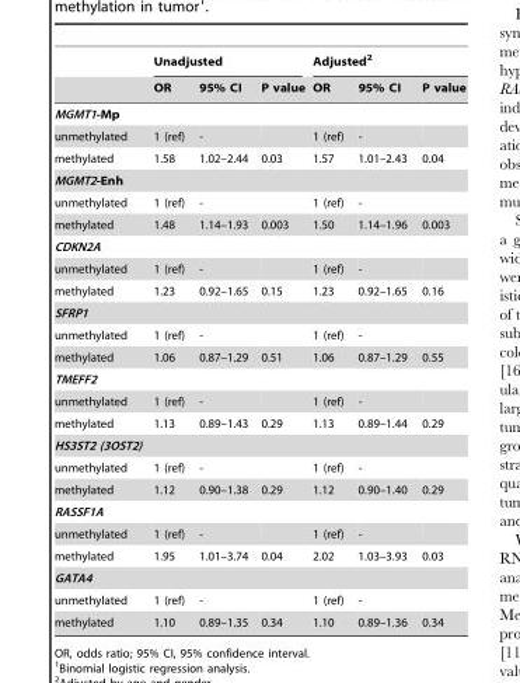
<table><thead><tr><td rowspan="2"></td><td colspan="3">Unadjusted</td><td colspan="3">Adjusted<sup>2</sup></td></tr><tr><td>OR</td><td>95% CI</td><td>P value</td><td>OR</td><td>95% CI</td><td>P value</td></tr></thead><tbody><tr><td colspan="7">MGMT1-Mp</td></tr><tr><td>unmethylated</td><td>1 (ref)</td><td>-</td><td></td><td>1 (ref)</td><td>-</td><td></td></tr><tr><td>methylated</td><td>1.58</td><td>1.02–2.44</td><td>0.03</td><td>1.57</td><td>1.01–2.43</td><td>0.04</td></tr><tr><td colspan="7">MGMT2-Enh</td></tr><tr><td>unmethylated</td><td>1 (ref)</td><td>-</td><td></td><td>1 (ref)</td><td>-</td><td></td></tr><tr><td>methylated</td><td>1.48</td><td>1.14–1.93</td><td>0.003</td><td>1.50</td><td>1.14–1.96</td><td>0.003</td></tr><tr><td colspan="7">CDKN2A</td></tr><tr><td>unmethylated</td><td>1 (ref)</td><td>-</td><td></td><td>1 (ref)</td><td>-</td><td></td></tr><tr><td>methylated</td><td>1.23</td><td>0.92–1.65</td><td>0.15</td><td>1.23</td><td>0.92–1.65</td><td>0.16</td></tr><tr><td colspan="7">SFRP1</td></tr><tr><td>unmethylated</td><td>1 (ref)</td><td>-</td><td></td><td>1 (ref)</td><td>-</td><td></td></tr><tr><td>methylated</td><td>1.06</td><td>0.87–1.29</td><td>0.51</td><td>1.06</td><td>0.87–1.29</td><td>0.55</td></tr><tr><td colspan="7">TMEFF2</td></tr><tr><td>unmethylated</td><td>1 (ref)</td><td>-</td><td></td><td>1 (ref)</td><td>-</td><td></td></tr><tr><td>methylated</td><td>1.13</td><td>0.89–1.43</td><td>0.29</td><td>1.13</td><td>0.89–1.44</td><td>0.29</td></tr><tr><td colspan="7">HS3ST2 (3OST2)</td></tr><tr><td>unmethylated</td><td>1 (ref)</td><td>-</td><td></td><td>1 (ref)</td><td>-</td><td></td></tr><tr><td>methylated</td><td>1.12</td><td>0.90–1.38</td><td>0.29</td><td>1.12</td><td>0.90–1.40</td><td>0.29</td></tr><tr><td colspan="7">RASSF1A</td></tr><tr><td>unmethylated</td><td>1 (ref)</td><td>-</td><td></td><td>1 (ref)</td><td>-</td><td></td></tr><tr><td>methylated</td><td>1.95</td><td>1.01–3.74</td><td>0.04</td><td>2.02</td><td>1.03–3.93</td><td>0.03</td></tr><tr><td colspan="7">GATA4</td></tr><tr><td>unmethylated</td><td>1 (ref)</td><td>-</td><td></td><td>1 (ref)</td><td>-</td><td></td></tr><tr><td>methylated</td><td>1.10</td><td>0.89–1.35</td><td>0.34</td><td>1.10</td><td>0.89–1.36</td><td>0.34</td></tr></tbody></table>